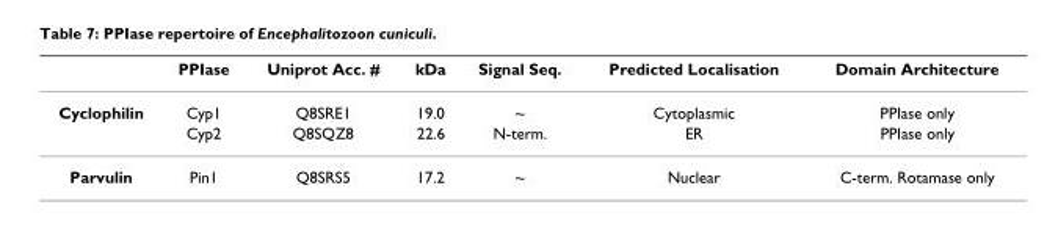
<table><thead><tr><td></td><td>PPIase</td><td>Uniprot Acc. #</td><td>kDa</td><td>Signal Seq.</td><td>Predicted Localisation</td><td>Domain Architecture</td></tr></thead><tbody><tr><td rowspan="2">Cyclophilin</td><td>Cyp1</td><td>Q8SRE1</td><td>19.0</td><td>~</td><td>Cytoplasmic</td><td>PPIase only</td></tr><tr><td>Cyp2</td><td>Q8SQZ8</td><td>22.6</td><td>N-term.</td><td>ER</td><td>PPIase only</td></tr><tr><td>Parvulin</td><td>Pin1</td><td>Q8SRS5</td><td>17.2</td><td>~</td><td>Nuclear</td><td>C-term. Rotamase only</td></tr></tbody></table>